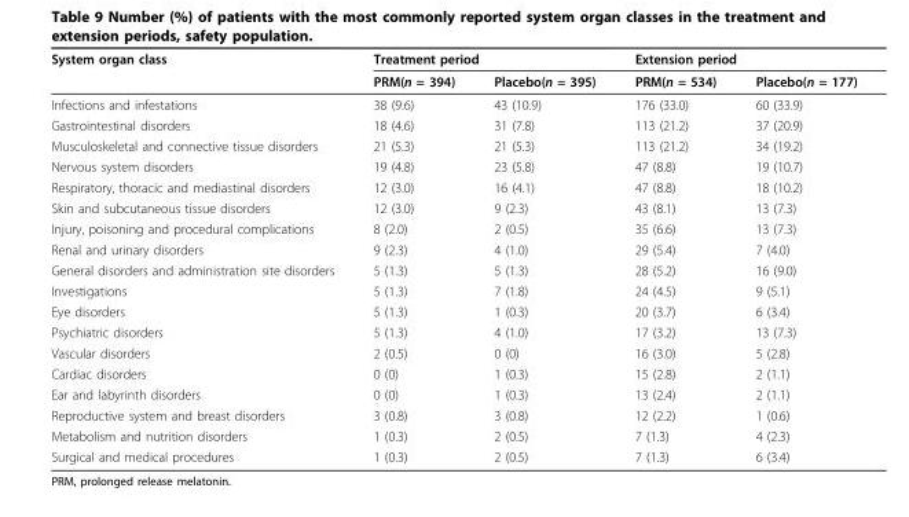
<table><thead><tr><td rowspan="2">System organ class</td><td colspan="2">Treatment period</td><td colspan="2">Extension period</td></tr><tr><td>PRM(n = 394)</td><td>Placebo(n = 395)</td><td>PRM(n = 534)</td><td>Placebo(n = 177)</td></tr></thead><tbody><tr><td>Infections and infestations</td><td>38 (9.6)</td><td>43 (10.9)</td><td>176 (33.0)</td><td>60 (33.9)</td></tr><tr><td>Gastrointestinal disorders</td><td>18 (4.6)</td><td>31 (7.8)</td><td>113 (21.2)</td><td>37 (20.9)</td></tr><tr><td>Musculoskeletal and connective tissue disorders</td><td>21 (5.3)</td><td>21 (5.3)</td><td>113 (21.2)</td><td>34 (19.2)</td></tr><tr><td>Nervous system disorders</td><td>19 (4.8)</td><td>23 (5.8)</td><td>47 (8.8)</td><td>19 (10.7)</td></tr><tr><td>Respiratory, thoracic and mediastinal disorders</td><td>12 (3.0)</td><td>16 (4.1)</td><td>47 (8.8)</td><td>18 (10.2)</td></tr><tr><td>Skin and subcutaneous tissue disorders</td><td>12 (3.0)</td><td>9 (2.3)</td><td>43 (8.1)</td><td>13 (7.3)</td></tr><tr><td>Injury, poisoning and procedural complications</td><td>8 (2.0)</td><td>2 (0.5)</td><td>35 (6.6)</td><td>13 (7.3)</td></tr><tr><td>Renal and urinary disorders</td><td>9 (2.3)</td><td>4 (1.0)</td><td>29 (5.4)</td><td>7 (4.0)</td></tr><tr><td>General disorders and administration site disorders</td><td>5 (1.3)</td><td>5 (1.3)</td><td>28 (5.2)</td><td>16 (9.0)</td></tr><tr><td>Investigations</td><td>5 (1.3)</td><td>7 (1.8)</td><td>24 (4.5)</td><td>9 (5.1)</td></tr><tr><td>Eye disorders</td><td>5 (1.3)</td><td>1 (0.3)</td><td>20 (3.7)</td><td>6 (3.4)</td></tr><tr><td>Psychiatric disorders</td><td>5 (1.3)</td><td>4 (1.0)</td><td>17 (3.2)</td><td>13 (7.3)</td></tr><tr><td>Vascular disorders</td><td>2 (0.5)</td><td>0 (0)</td><td>16 (3.0)</td><td>5 (2.8)</td></tr><tr><td>Cardiac disorders</td><td>0 (0)</td><td>1 (0.3)</td><td>15 (2.8)</td><td>2 (1.1)</td></tr><tr><td>Ear and labyrinth disorders</td><td>0 (0)</td><td>1 (0.3)</td><td>13 (2.4)</td><td>2 (1.1)</td></tr><tr><td>Reproductive system and breast disorders</td><td>3 (0.8)</td><td>3 (0.8)</td><td>12 (2.2)</td><td>1 (0.6)</td></tr><tr><td>Metabolism and nutrition disorders</td><td>1 (0.3)</td><td>2 (0.5)</td><td>7 (1.3)</td><td>4 (2.3)</td></tr><tr><td>Surgical and medical procedures</td><td>1 (0.3)</td><td>2 (0.5)</td><td>7 (1.3)</td><td>6 (3.4)</td></tr></tbody></table>